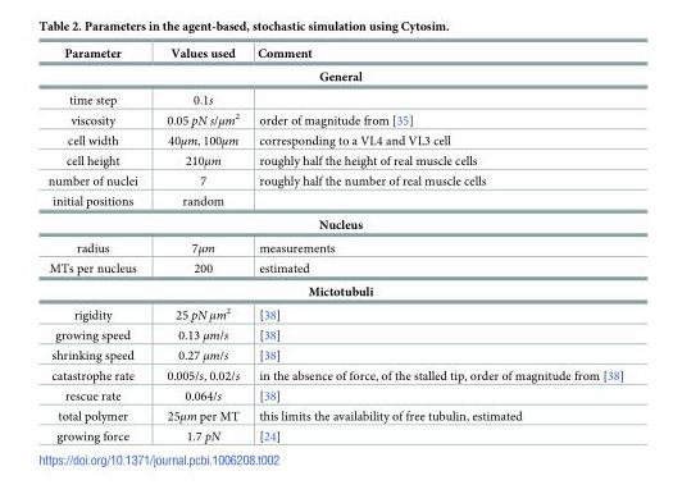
<table><thead><tr><td>Parameter</td><td>Values used</td><td>Comment</td></tr></thead><tbody><tr><td colspan="3">General</td></tr><tr><td>time step</td><td>0.1s</td><td></td></tr><tr><td>viscosity</td><td>0.05 pN s/μm<sup>2</sup></td><td>order of magnitude from [35]</td></tr><tr><td>cell width</td><td>40μm, 100μm</td><td>corresponding to a VL4 and VL3 cell</td></tr><tr><td>cell height</td><td>210μm</td><td>roughly half the height of real muscle cells</td></tr><tr><td>number of nuclei</td><td>7</td><td>roughly half the number of real muscle cells</td></tr><tr><td>initial positions</td><td>random</td><td></td></tr><tr><td colspan="3">Nucleus</td></tr><tr><td>radius</td><td>7μm</td><td>measurements</td></tr><tr><td>MTs per nucleus</td><td>200</td><td>estimated</td></tr><tr><td colspan="3">Mictotubuli</td></tr><tr><td>rigidity</td><td>25 pN μm<sup>2</sup></td><td>[38]</td></tr><tr><td>growing speed</td><td>0.13 μm/s</td><td>[38]</td></tr><tr><td>shrinking speed</td><td>0.27 μm/s</td><td>[38]</td></tr><tr><td>catastrophe rate</td><td>0.005/s, 0.02/s</td><td>in the absence of force, of the stalled tip, order of magnitude from [38]</td></tr><tr><td>rescue rate</td><td>0.064/s</td><td>[38]</td></tr><tr><td>total polymer</td><td>25μm per MT</td><td>this limits the availability of free tubulin, estimated</td></tr><tr><td>growing force</td><td>1.7 pN</td><td>[24]</td></tr></tbody></table>